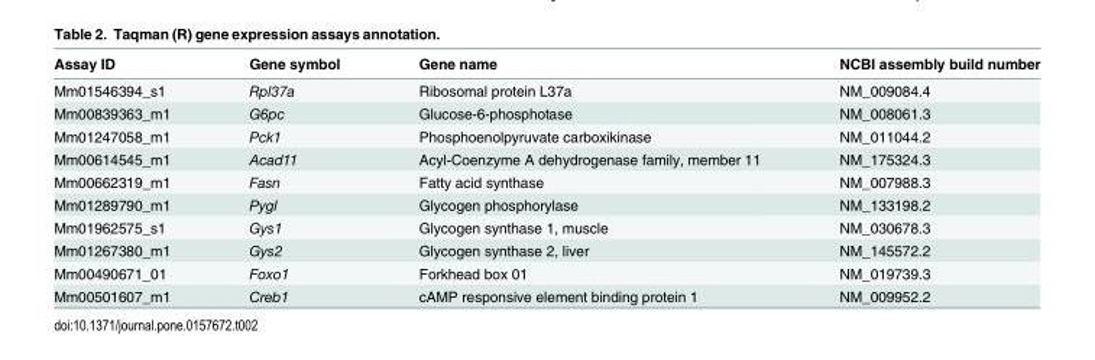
<table><thead><tr><td>Assay ID</td><td>Gene symbol</td><td>Gene name</td><td>NCBI assembly build number</td></tr></thead><tbody><tr><td>Mm01546394_s1</td><td>Rpl37a</td><td>Ribosomal protein L37a</td><td>NM_009084.4</td></tr><tr><td>Mm00839363_m1</td><td>G6pc</td><td>Glucose-6-phosphotase</td><td>NM_008061.3</td></tr><tr><td>Mm01247058_m1</td><td>Pck1</td><td>Phosphoenolpyruvate carboxikinase</td><td>NM_011044.2</td></tr><tr><td>Mm00614545_m1</td><td>Acad11</td><td>Acyl-Coenzyme A dehydrogenase family, member 11</td><td>NM_175324.3</td></tr><tr><td>Mm00662319_m1</td><td>Fasn</td><td>Fatty acid synthase</td><td>NM_007988.3</td></tr><tr><td>Mm01289790_m1</td><td>Pygl</td><td>Glycogen phosphorylase</td><td>NM_133198.2</td></tr><tr><td>Mm01962575_s1</td><td>Gys1</td><td>Glycogen synthase 1, muscle</td><td>NM_030678.3</td></tr><tr><td>Mm01267380_m1</td><td>Gys2</td><td>Glycogen synthase 2, liver</td><td>NM_145572.2</td></tr><tr><td>Mm00490671_01</td><td>Foxo1</td><td>Forkhead box 01</td><td>NM_019739.3</td></tr><tr><td>Mm00501607_m1</td><td>Creb1</td><td>cAMP responsive element binding protein 1</td><td>NM_009952.2</td></tr></tbody></table>